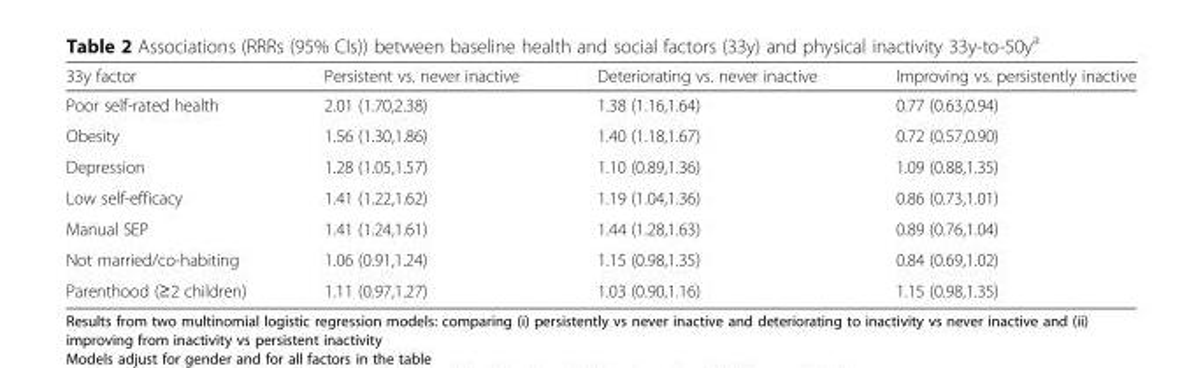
<table><thead><tr><td>33y factor</td><td>Persistent vs. never inactive</td><td>Deteriorating vs. never inactive</td><td>Improving vs. persistently inactive</td></tr></thead><tbody><tr><td>Poor self-rated health</td><td>2.01 (1.70,2.38)</td><td>1.38 (1.16,1.64)</td><td>0.77 (0.63,0.94)</td></tr><tr><td>Obesity</td><td>1.56 (1.30,1.86)</td><td>1.40 (1.18,1.67)</td><td>0.72 (0.57,0.90)</td></tr><tr><td>Depression</td><td>1.28 (1.05,1.57)</td><td>1.10 (0.89,1.36)</td><td>1.09 (0.88,1.35)</td></tr><tr><td>Low self-efficacy</td><td>1.41 (1.22,1.62)</td><td>1.19 (1.04,1.36)</td><td>0.86 (0.73,1.01)</td></tr><tr><td>Manual SEP</td><td>1.41 (1.24,1.61)</td><td>1.44 (1.28,1.63)</td><td>0.89 (0.76,1.04)</td></tr><tr><td>Not married/co-habiting</td><td>1.06 (0.91,1.24)</td><td>1.15 (0.98,1.35)</td><td>0.84 (0.69,1.02)</td></tr><tr><td>Parenthood (≥2 children)</td><td>1.11 (0.97,1.27)</td><td>1.03 (0.90,1.16)</td><td>1.15 (0.98,1.35)</td></tr></tbody></table>